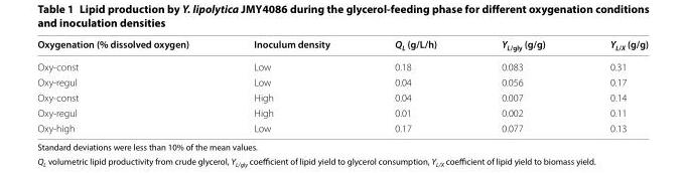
<table><thead><tr><td>Oxygenation (% dissolved oxygen)</td><td>Inoculum density</td><td>Q<sub>L</sub> (g/L/h)</td><td>Y<sub>L/gly</sub> (g/g)</td><td>Y<sub>L/X</sub> (g/g)</td></tr></thead><tbody><tr><td>Oxy-const</td><td>Low</td><td>0.18</td><td>0.083</td><td>0.31</td></tr><tr><td>Oxy-regul</td><td>Low</td><td>0.04</td><td>0.056</td><td>0.17</td></tr><tr><td>Oxy-const</td><td>High</td><td>0.04</td><td>0.007</td><td>0.14</td></tr><tr><td>Oxy-regul</td><td>High</td><td>0.01</td><td>0.002</td><td>0.11</td></tr><tr><td>Oxy-high</td><td>Low</td><td>0.17</td><td>0.077</td><td>0.13</td></tr></tbody></table>